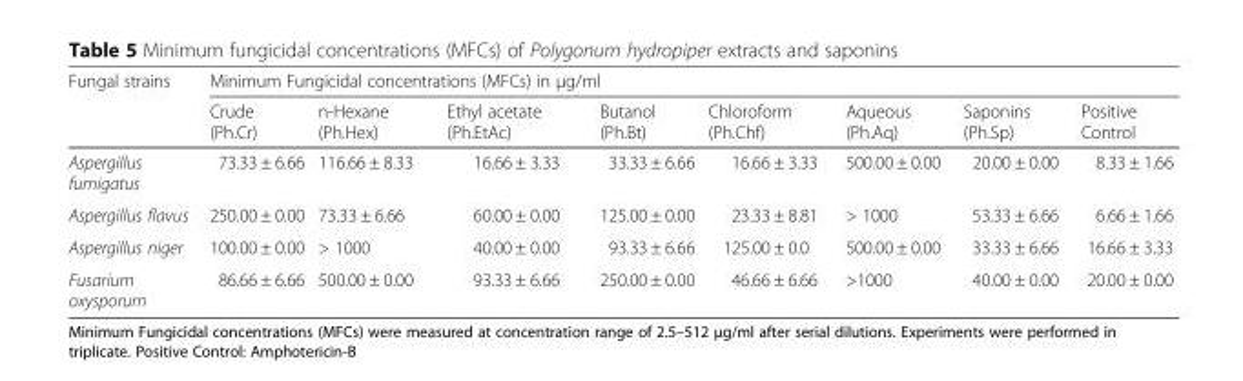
<table><thead><tr><td rowspan="2">Fungal strains</td><td colspan="8">Minimum Fungicidal concentrations (MFCs) in μg/ml</td></tr><tr><td>Crude (Ph.Cr)</td><td>n-Hexane (Ph.Hex)</td><td>Ethyl acetate (Ph.EtAc)</td><td>Butanol (Ph.Bt)</td><td>Chloroform (Ph.Chf)</td><td>Aqueous (Ph.Aq)</td><td>Saponins (Ph.Sp)</td><td>Positive Control</td></tr></thead><tbody><tr><td>Aspergillus fumigatus</td><td>73.33 ± 6.66</td><td>116.66 ± 8.33</td><td>16.66 ± 3.33</td><td>33.33 ± 6.66</td><td>16.66 ± 3.33</td><td>500.00 ± 0.00</td><td>20.00 ± 0.00</td><td>8.33 ± 1.66</td></tr><tr><td>Aspergillus flavus</td><td>250.00 ± 0.00</td><td>73.33 ± 6.66</td><td>60.00 ± 0.00</td><td>125.00 ± 0.00</td><td>23.33 ± 8.81</td><td>&gt; 1000</td><td>53.33 ± 6.66</td><td>6.66 ± 1.66</td></tr><tr><td>Aspergillus niger</td><td>100.00 ± 0.00</td><td>&gt; 1000</td><td>40.00 ± 0.00</td><td>93.33 ± 6.66</td><td>125.00 ± 0.0</td><td>500.00 ± 0.00</td><td>33.33 ± 6.66</td><td>16.66 ± 3.33</td></tr><tr><td>Fusarium oxysporum</td><td>86.66 ± 6.66</td><td>500.00 ± 0.00</td><td>93.33 ± 6.66</td><td>250.00 ± 0.00</td><td>46.66 ± 6.66</td><td>&gt;1000</td><td>40.00 ± 0.00</td><td>20.00 ± 0.00</td></tr></tbody></table>